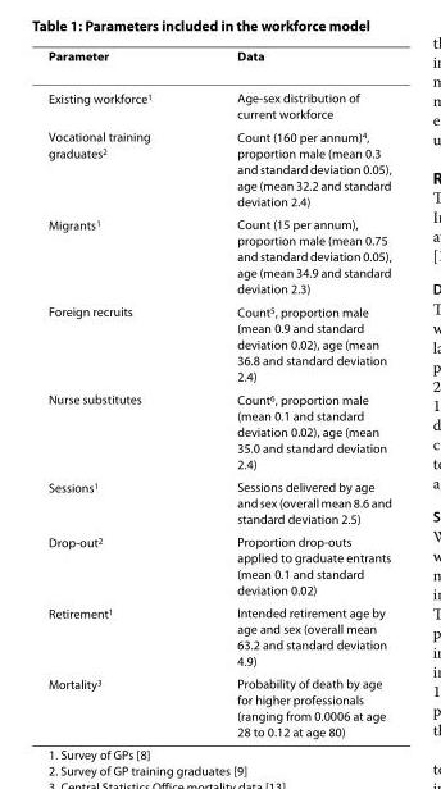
<table><thead><tr><td>Parameter</td><td>Data</td></tr></thead><tbody><tr><td>Existing workforce<sup>1</sup></td><td>Age-sex distribution of current workforce</td></tr><tr><td>Vocational training graduates<sup>2</sup></td><td>Count (160 per annum)<sup>4</sup>, proportion male (mean 0.3 and standard deviation 0.05), age (mean 32.2 and standard deviation 2.4)</td></tr><tr><td>Migrants<sup>1</sup></td><td>Count (15 per annum), proportion male (mean 0.75 and standard deviation 0.05), age (mean 34.9 and standard deviation 2.3)</td></tr><tr><td>Foreign recruits</td><td>Count<sup>5</sup>, proportion male (mean 0.9 and standard deviation 0.02), age (mean 36.8 and standard deviation 2.4)</td></tr><tr><td>Nurse substitutes</td><td>Count<sup>6</sup>, proportion male (mean 0.1 and standard deviation 0.02), age (mean 35.0 and standard deviation 2.4)</td></tr><tr><td>Sessions<sup>1</sup></td><td>Sessions delivered by age and sex (overall mean 8.6 and standard deviation 2.5)</td></tr><tr><td>Drop-out<sup>2</sup></td><td>Proportion drop-outs applied to graduate entrants (mean 0.1 and standard deviation 0.02)</td></tr><tr><td>Retirement<sup>1</sup></td><td>Intended retirement age by age and sex (overall mean 63.2 and standard deviation 4.9)</td></tr><tr><td>Mortality<sup>3</sup></td><td>Probability of death by age for higher professionals (ranging from 0.0006 at age 28 to 0.12 at age 80)</td></tr></tbody></table>